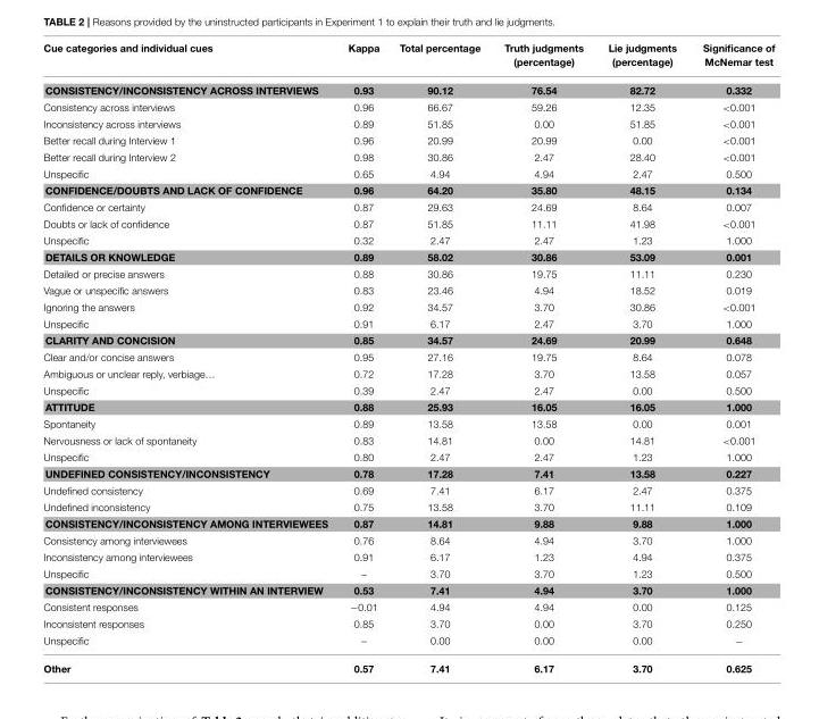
<table><thead><tr><td>Cue categories and individual cues</td><td>Kappa</td><td>Total percentage</td><td>Truth judgments (percentage)</td><td>Lie judgments (percentage)</td><td>Significance of McNemar test</td></tr></thead><tbody><tr><td>CONSISTENCY/INCONSISTENCY ACROSS INTERVIEWS</td><td>0.93</td><td>90.12</td><td>76.54</td><td>82.72</td><td>0.332</td></tr><tr><td>Consistency across interviews</td><td>0.96</td><td>66.67</td><td>59.26</td><td>12.35</td><td>&lt;0.001</td></tr><tr><td>Inconsistency across interviews</td><td>0.89</td><td>51.85</td><td>0.00</td><td>51.85</td><td>&lt;0.001</td></tr><tr><td>Better recall during Interview 1</td><td>0.96</td><td>20.99</td><td>20.99</td><td>0.00</td><td>&lt;0.001</td></tr><tr><td>Better recall during Interview 2</td><td>0.98</td><td>30.86</td><td>2.47</td><td>28.40</td><td>&lt;0.001</td></tr><tr><td>Unspecific</td><td>0.65</td><td>4.94</td><td>4.94</td><td>2.47</td><td>0.500</td></tr><tr><td>CONFIDENCE/DOUBTS AND LACK OF CONFIDENCE</td><td>0.96</td><td>64.20</td><td>35.80</td><td>48.15</td><td>0.134</td></tr><tr><td>Confidence or certainty</td><td>0.87</td><td>29.63</td><td>24.69</td><td>8.64</td><td>0.007</td></tr><tr><td>Doubts or lack of confidence</td><td>0.87</td><td>51.85</td><td>11.11</td><td>41.98</td><td>&lt;0.001</td></tr><tr><td>Unspecific</td><td>0.32</td><td>2.47</td><td>2.47</td><td>1.23</td><td>1.000</td></tr><tr><td>DETAILS OR KNOWLEDGE</td><td>0.89</td><td>58.02</td><td>30.86</td><td>53.09</td><td>0.001</td></tr><tr><td>Detailed or precise answers</td><td>0.88</td><td>30.86</td><td>19.75</td><td>11.11</td><td>0.230</td></tr><tr><td>Vague or unspecific answers</td><td>0.83</td><td>23.46</td><td>4.94</td><td>18.52</td><td>0.019</td></tr><tr><td>Ignoring the answers</td><td>0.92</td><td>34.57</td><td>3.70</td><td>30.86</td><td>&lt;0.001</td></tr><tr><td>Unspecific</td><td>0.91</td><td>6.17</td><td>2.47</td><td>3.70</td><td>1.000</td></tr><tr><td>CLARITY AND CONCISION</td><td>0.85</td><td>34.57</td><td>24.69</td><td>20.99</td><td>0.648</td></tr><tr><td>Clear and/or concise answers</td><td>0.95</td><td>27.16</td><td>19.75</td><td>8.64</td><td>0.078</td></tr><tr><td>Ambiguous or unclear reply, verbiage…</td><td>0.72</td><td>17.28</td><td>3.70</td><td>13.58</td><td>0.057</td></tr><tr><td>Unspecific</td><td>0.39</td><td>2.47</td><td>2.47</td><td>0.00</td><td>0.500</td></tr><tr><td>ATTITUDE</td><td>0.88</td><td>25.93</td><td>16.05</td><td>16.05</td><td>1.000</td></tr><tr><td>Spontaneity</td><td>0.89</td><td>13.58</td><td>13.58</td><td>0.00</td><td>0.001</td></tr><tr><td>Nervousness or lack of spontaneity</td><td>0.83</td><td>14.81</td><td>0.00</td><td>14.81</td><td>&lt;0.001</td></tr><tr><td>Unspecific</td><td>0.80</td><td>2.47</td><td>2.47</td><td>1.23</td><td>1.000</td></tr><tr><td>UNDEFINED CONSISTENCY/INCONSISTENCY</td><td>0.78</td><td>17.28</td><td>7.41</td><td>13.58</td><td>0.227</td></tr><tr><td>Undefined consistency</td><td>0.69</td><td>7.41</td><td>6.17</td><td>2.47</td><td>0.375</td></tr><tr><td>Undefined inconsistency</td><td>0.75</td><td>13.58</td><td>3.70</td><td>11.11</td><td>0.109</td></tr><tr><td>CONSISTENCY/INCONSISTENCY AMONG INTERVIEWEES</td><td>0.87</td><td>14.81</td><td>9.88</td><td>9.88</td><td>1.000</td></tr><tr><td>Consistency among interviewees</td><td>0.76</td><td>8.64</td><td>4.94</td><td>3.70</td><td>1.000</td></tr><tr><td>Inconsistency among interviewees</td><td>0.91</td><td>6.17</td><td>1.23</td><td>4.94</td><td>0.375</td></tr><tr><td>Unspecific</td><td>–</td><td>3.70</td><td>3.70</td><td>1.23</td><td>0.500</td></tr><tr><td>CONSISTENCY/INCONSISTENCY WITHIN AN INTERVIEW</td><td>0.53</td><td>7.41</td><td>4.94</td><td>3.70</td><td>1.000</td></tr><tr><td>Consistent responses</td><td>−0.01</td><td>4.94</td><td>4.94</td><td>0.00</td><td>0.125</td></tr><tr><td>Inconsistent responses</td><td>0.85</td><td>3.70</td><td>0.00</td><td>3.70</td><td>0.250</td></tr><tr><td>Unspecific</td><td>–</td><td>0.00</td><td>0.00</td><td>0.00</td><td>−</td></tr><tr><td>Other</td><td>0.57</td><td>7.41</td><td>6.17</td><td>3.70</td><td>0.625</td></tr></tbody></table>